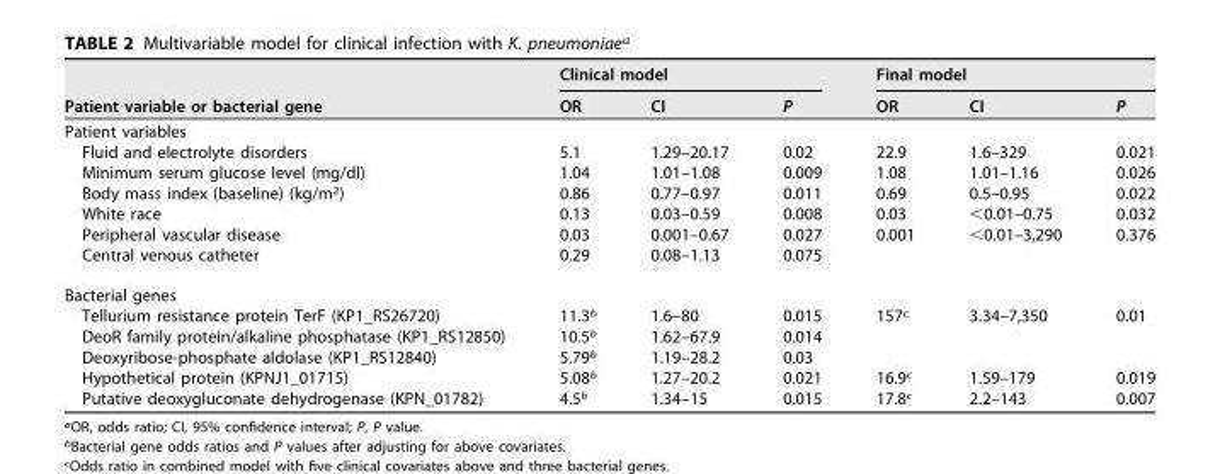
<table><thead><tr><td rowspan="2">Patient variable or bacterial gene</td><td colspan="3">Clinical model</td><td colspan="3">Final model</td></tr><tr><td>OR</td><td>CI</td><td>P</td><td>OR</td><td>CI</td><td>P</td></tr></thead><tbody><tr><td colspan="7">Patient variables</td></tr><tr><td>Fluid and electrolyte disorders</td><td>5.1</td><td>1.29–20.17</td><td>0.02</td><td>22.9</td><td>1.6–329</td><td>0.021</td></tr><tr><td>Minimum serum glucose level (mg/dl)</td><td>1.04</td><td>1.01–1.08</td><td>0.009</td><td>1.08</td><td>1.01–1.16</td><td>0.026</td></tr><tr><td>Body mass index (baseline) (kg/m<sup>2</sup>)</td><td>0.86</td><td>0.77–0.97</td><td>0.011</td><td>0.69</td><td>0.5–0.95</td><td>0.022</td></tr><tr><td>White race</td><td>0.13</td><td>0.03–0.59</td><td>0.008</td><td>0.03</td><td>&lt;0.01–0.75</td><td>0.032</td></tr><tr><td>Peripheral vascular disease</td><td>0.03</td><td>0.001–0.67</td><td>0.027</td><td>0.001</td><td>&lt;0.01–3,290</td><td>0.376</td></tr><tr><td>Central venous catheter</td><td>0.29</td><td>0.08–1.13</td><td>0.075</td><td></td><td></td><td></td></tr><tr><td colspan="7">Bacterial genes</td></tr><tr><td>Tellurium resistance protein TerF (KP1_RS26720)</td><td>11.3<sup>b</sup></td><td>1.6–80</td><td>0.015</td><td>157<sup>c</sup></td><td>3.34–7,350</td><td>0.01</td></tr><tr><td>DeoR family protein/alkaline phosphatase (KP1_RS12850)</td><td>10.5<sup>b</sup></td><td>1.62–67.9</td><td>0.014</td><td></td><td></td><td></td></tr><tr><td>Deoxyribose-phosphate aldolase (KP1_RS12840)</td><td>5.79<sup>b</sup></td><td>1.19–28.2</td><td>0.03</td><td></td><td></td><td></td></tr><tr><td>Hypothetical protein (KPNJ1_01715)</td><td>5.08<sup>b</sup></td><td>1.27–20.2</td><td>0.021</td><td>16.9<sup>c</sup></td><td>1.59–179</td><td>0.019</td></tr><tr><td>Putative deoxygluconate dehydrogenase (KPN_01782)</td><td>4.5<sup>b</sup></td><td>1.34–15</td><td>0.015</td><td>17.8<sup>c</sup></td><td>2.2–143</td><td>0.007</td></tr></tbody></table>